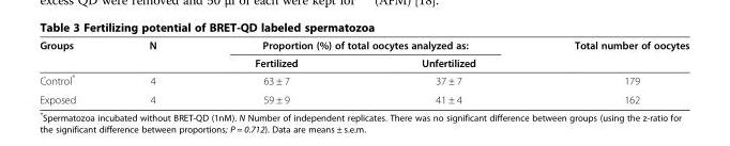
<table><thead><tr><td rowspan="2">Groups</td><td rowspan="2">N</td><td colspan="2">Proportion (%) of total oocytes analyzed as:</td><td rowspan="2">Total number of oocytes</td></tr><tr><td>Fertilized</td><td>Unfertilized</td></tr></thead><tbody><tr><td>Control*</td><td>4</td><td>63 ± 7</td><td>37 ± 7</td><td>179</td></tr><tr><td>Exposed</td><td>4</td><td>59 ± 9</td><td>41 ± 4</td><td>162</td></tr></tbody></table>